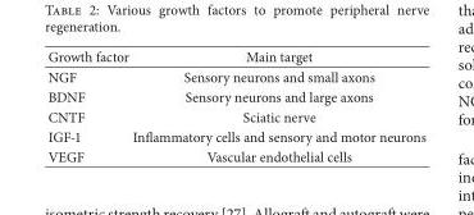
<table><thead><tr><td>Growth factor</td><td>Main target</td></tr></thead><tbody><tr><td>NGF</td><td>Sensory neurons and small axons</td></tr><tr><td>BDNF</td><td>Sensory neurons and large axons</td></tr><tr><td>CNTF</td><td>Sciatic nerve</td></tr><tr><td>IGF-1</td><td>Inflammatory cells and sensory and motor neurons</td></tr><tr><td>VEGF</td><td>Vascular endothelial cells</td></tr></tbody></table>